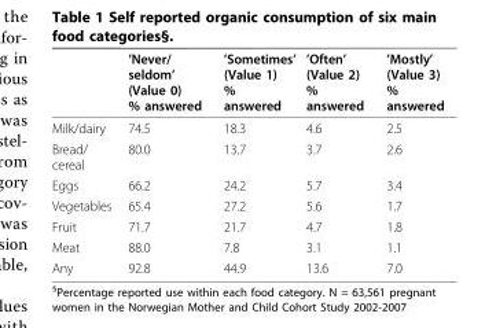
<table><thead><tr><td></td><td>’Never/ seldom’ (Value 0) % answered</td><td>’Sometimes’ (Value 1) % answered</td><td>’Often’ (Value 2) % answered</td><td>’Mostly’ (Value 3) % answered</td></tr></thead><tbody><tr><td>Milk/dairy</td><td>74.5</td><td>18.3</td><td>4.6</td><td>2.5</td></tr><tr><td>Bread/ cereal</td><td>80.0</td><td>13.7</td><td>3.7</td><td>2.6</td></tr><tr><td>Eggs</td><td>66.2</td><td>24.2</td><td>5.7</td><td>3.4</td></tr><tr><td>Vegetables</td><td>65.4</td><td>27.2</td><td>5.6</td><td>1.7</td></tr><tr><td>Fruit</td><td>71.7</td><td>21.7</td><td>4.7</td><td>1.8</td></tr><tr><td>Meat</td><td>88.0</td><td>7.8</td><td>3.1</td><td>1.1</td></tr><tr><td>Any</td><td>92.8</td><td>44.9</td><td>13.6</td><td>7.0</td></tr></tbody></table>